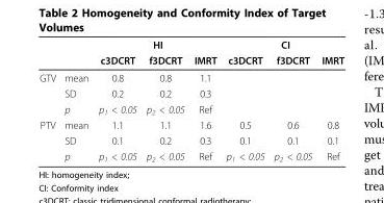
<table><thead><tr><td rowspan="2"></td><td rowspan="2"></td><td colspan="3">HI</td><td colspan="3">CI</td></tr><tr><td>c3DCRT</td><td>f3DCRT</td><td>IMRT</td><td>c3DCRT</td><td>f3DCRT</td><td>IMRT</td></tr></thead><tbody><tr><td rowspan="3">GTV</td><td>mean</td><td>0.8</td><td>0.8</td><td>1.1</td><td></td><td></td><td></td></tr><tr><td>SD</td><td>0.2</td><td>0.2</td><td>0.3</td><td></td><td></td><td></td></tr><tr><td>p</td><td>p<sub>1</sub> &lt; 0.05</td><td>p<sub>2</sub> &lt; 0.05</td><td>Ref</td><td></td><td></td><td></td></tr><tr><td rowspan="3">PTV</td><td>mean</td><td>1.1</td><td>1.1</td><td>1.6</td><td>0.5</td><td>0.6</td><td>0.8</td></tr><tr><td>SD</td><td>0.1</td><td>0.2</td><td>0.3</td><td>0.1</td><td>0.1</td><td>0.1</td></tr><tr><td>p</td><td>p<sub>1</sub> &lt; 0.05</td><td>p<sub>2</sub> &lt; 0.05</td><td>Ref</td><td>p<sub>1</sub> &lt; 0.05</td><td>p<sub>2</sub> &lt; 0.05</td><td>Ref</td></tr></tbody></table>